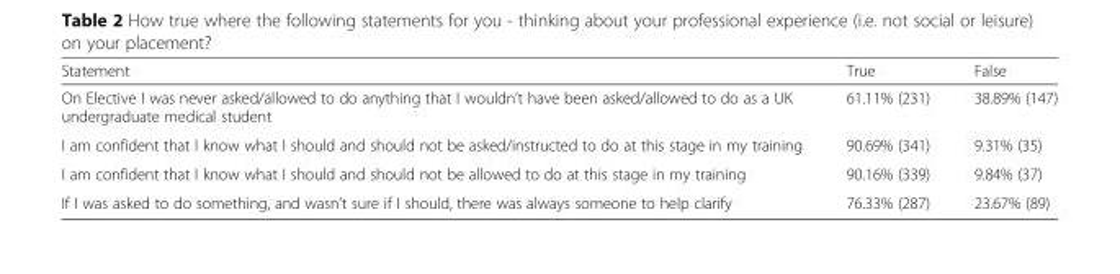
<table><thead><tr><td>Statement</td><td>True</td><td>False</td></tr></thead><tbody><tr><td>On Elective I was never asked/allowed to do anything that I wouldn’t have been asked/allowed to do as a UK undergraduate medical student</td><td>61.11% (231)</td><td>38.89% (147)</td></tr><tr><td>I am confident that I know what I should and should not be asked/instructed to do at this stage in my training</td><td>90.69% (341)</td><td>9.31% (35)</td></tr><tr><td>I am confident that I know what I should and should not be allowed to do at this stage in my training</td><td>90.16% (339)</td><td>9.84% (37)</td></tr><tr><td>If I was asked to do something, and wasn’t sure if I should, there was always someone to help clarify</td><td>76.33% (287)</td><td>23.67% (89)</td></tr></tbody></table>